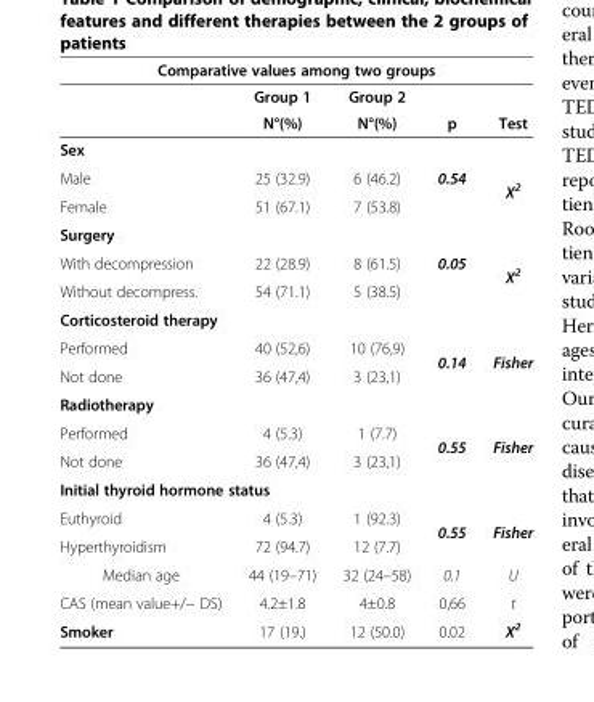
<table><thead><tr><td colspan="5">Comparative values among two groups</td></tr><tr><td rowspan="2"></td><td rowspan="2">Group 1 N°(%)</td><td rowspan="2">Group 2 N°(%)</td><td rowspan="2">p</td><td rowspan="2">Test</td></tr><tr></tr></thead><tbody><tr><td colspan="5">Sex</td></tr><tr><td>Male</td><td>25 (32.9)</td><td>6 (46.2)</td><td rowspan="2">0.54</td><td rowspan="2">Χ<sup>2</sup></td></tr><tr><td>Female</td><td>51 (67.1)</td><td>7 (53.8)</td></tr><tr><td colspan="5">Surgery</td></tr><tr><td>With decompression</td><td>22 (28.9)</td><td>8 (61.5)</td><td rowspan="2">0.05</td><td rowspan="2">Χ<sup>2</sup></td></tr><tr><td>Without decompress.</td><td>54 (71.1)</td><td>5 (38.5)</td></tr><tr><td colspan="5">Corticosteroid therapy</td></tr><tr><td>Performed</td><td>40 (52,6)</td><td>10 (76,9)</td><td rowspan="2">0.14</td><td rowspan="2">Fisher</td></tr><tr><td>Not done</td><td>36 (47,4)</td><td>3 (23,1)</td></tr><tr><td colspan="5">Radiotherapy</td></tr><tr><td>Performed</td><td>4 (5.3)</td><td>1 (7.7)</td><td rowspan="2">0.55</td><td rowspan="2">Fisher</td></tr><tr><td>Not done</td><td>36 (47,4)</td><td>3 (23,1)</td></tr><tr><td colspan="5">Initial thyroid hormone status</td></tr><tr><td>Euthyroid</td><td>4 (5.3)</td><td>1 (92.3)</td><td rowspan="2">0.55</td><td rowspan="2">Fisher</td></tr><tr><td>Hyperthyroidism</td><td>72 (94.7)</td><td>12 (7.7)</td></tr><tr><td>Median age</td><td>44 (19–71)</td><td>32 (24–58)</td><td>0.1</td><td>U</td></tr><tr><td>CAS (mean value+/− DS)</td><td>4.2±1.8</td><td>4±0.8</td><td>0,66</td><td>t</td></tr><tr><td>Smoker</td><td>17 (19.)</td><td>12 (50.0)</td><td>0.02</td><td>Χ<sup>2</sup></td></tr></tbody></table>